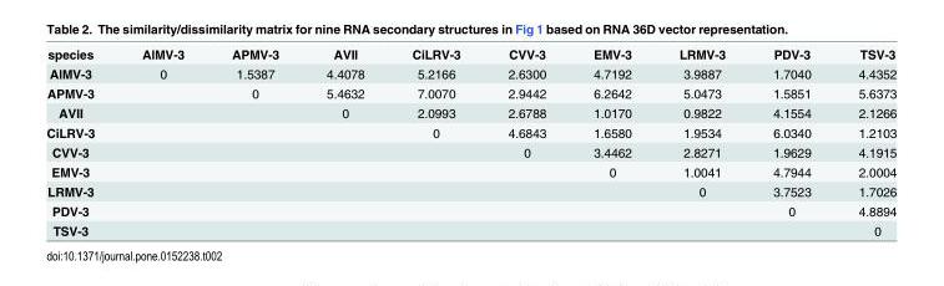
<table><tbody><tr><td>species</td><td>AlMV-3</td><td>APMV-3</td><td>AVII</td><td>CiLRV-3</td><td>CVV-3</td><td>EMV-3</td><td>LRMV-3</td><td>PDV-3</td><td>TSV-3</td></tr><tr><td>AlMV-3</td><td>0</td><td>1.5387</td><td>4.4078</td><td>5.2166</td><td>2.6300</td><td>4.7192</td><td>3.9887</td><td>1.7040</td><td>4.4352</td></tr><tr><td>APMV-3</td><td></td><td>0</td><td>5.4632</td><td>7.0070</td><td>2.9442</td><td>6.2642</td><td>5.0473</td><td>1.5851</td><td>5.6373</td></tr><tr><td>AVII</td><td></td><td></td><td>0</td><td>2.0993</td><td>2.6788</td><td>1.0170</td><td>0.9822</td><td>4.1554</td><td>2.1266</td></tr><tr><td>CiLRV-3</td><td></td><td></td><td></td><td>0</td><td>4.6843</td><td>1.6580</td><td>1.9534</td><td>6.0340</td><td>1.2103</td></tr><tr><td>CVV-3</td><td></td><td></td><td></td><td></td><td>0</td><td>3.4462</td><td>2.8271</td><td>1.9629</td><td>4.1915</td></tr><tr><td>EMV-3</td><td></td><td></td><td></td><td></td><td></td><td>0</td><td>1.0041</td><td>4.7944</td><td>2.0004</td></tr><tr><td>LRMV-3</td><td></td><td></td><td></td><td></td><td></td><td></td><td>0</td><td>3.7523</td><td>1.7026</td></tr><tr><td>PDV-3</td><td></td><td></td><td></td><td></td><td></td><td></td><td></td><td>0</td><td>4.8894</td></tr><tr><td>TSV-3</td><td></td><td></td><td></td><td></td><td></td><td></td><td></td><td></td><td>0</td></tr></tbody></table>